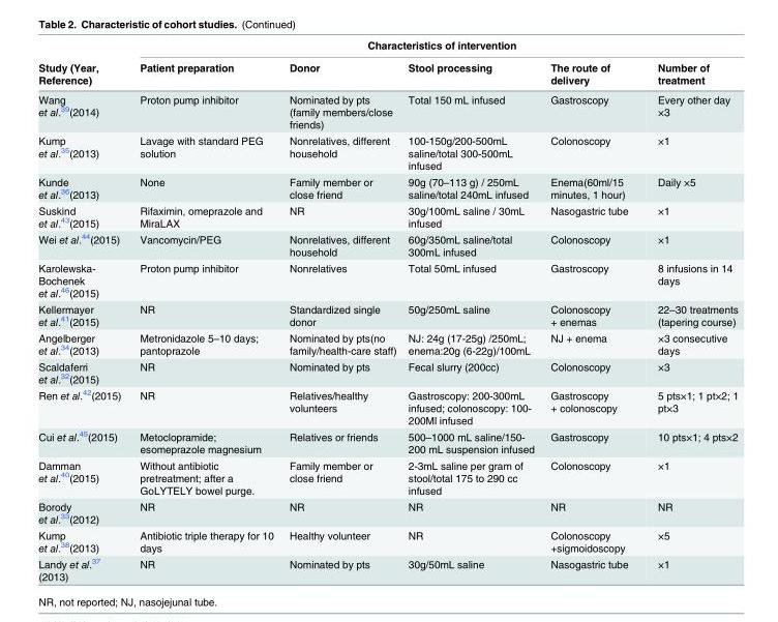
<table><thead><tr><td rowspan="2">Study (Year, Reference)</td><td colspan="5">Characteristics of intervention</td></tr><tr><td>Patient preparation</td><td>Donor</td><td>Stool processing</td><td>The route of delivery</td><td>Number of treatment</td></tr></thead><tbody><tr><td>Wang et al.<sup>39</sup>(2014)</td><td>Proton pump inhibitor</td><td>Nominated by pts (family members/close friends)</td><td>Total 150 mL infused</td><td>Gastroscopy</td><td>Every other day ×3</td></tr><tr><td>Kump et al.<sup>35</sup>(2013)</td><td>Lavage with standard PEG solution</td><td>Nonrelatives, different household</td><td>100-150g/200-500mL saline/total 300-500mL infused</td><td>Colonoscopy</td><td>×1</td></tr><tr><td>Kunde et al.<sup>36</sup>(2013)</td><td>None</td><td>Family member or close friend</td><td>90g (70–113 g) / 250mL saline/total 240mL infused</td><td>Enema(60ml/15 minutes, 1 hour)</td><td>Daily ×5</td></tr><tr><td>Suskind et al.<sup>43</sup>(2015)</td><td>Rifaximin, omeprazole and MiraLAX</td><td>NR</td><td>30g/100mL saline / 30mL infused</td><td>Nasogastric tube</td><td>×1</td></tr><tr><td>Wei et al.<sup>44</sup>(2015)</td><td>Vancomycin/PEG</td><td>Nonrelatives, different household</td><td>60g/350mL saline/total 300mL infused</td><td>Colonoscopy</td><td>×1</td></tr><tr><td>Karolewska- Bochenek et al.<sup>46</sup>(2015)</td><td>Proton pump inhibitor</td><td>Nonrelatives</td><td>Total 50mL infused</td><td>Gastroscopy</td><td>8 infusions in 14 days</td></tr><tr><td>Kellermayer et al.<sup>41</sup>(2015)</td><td>NR</td><td>Standardized single donor</td><td>50g/250mL saline</td><td>Colonoscopy + enemas</td><td>22–30 treatments (tapering course)</td></tr><tr><td>Angelberger et al.<sup>34</sup>(2013)</td><td>Metronidazole 5–10 days; pantoprazole</td><td>Nominated by pts(no family/health-care staff)</td><td>NJ: 24g (17-25g) /250mL; enema:20g (6-22g)/100mL</td><td>NJ + enema</td><td>×3 consecutive days</td></tr><tr><td>Scaldaferri et al.<sup>32</sup>(2015)</td><td>NR</td><td>Nominated by pts</td><td>Fecal slurry (200cc)</td><td>Colonoscopy</td><td>×3</td></tr><tr><td>Ren et al.<sup>42</sup>(2015)</td><td>NR</td><td>Relatives/healthy volunteers</td><td>Gastroscopy: 200-300mL infused; colonoscopy: 100- 200Ml infused</td><td>Gastroscopy + colonoscopy</td><td>5 pts×1; 1 pt×2; 1 pt×3</td></tr><tr><td>Cui et al.<sup>45</sup>(2015)</td><td>Metoclopramide; esomeprazole magnesium</td><td>Relatives or friends</td><td>500–1000 mL saline/150- 200 mL suspension infused</td><td>Gastroscopy</td><td>10 pts×1; 4 pts×2</td></tr><tr><td>Damman et al.<sup>40</sup>(2015)</td><td>Without antibiotic pretreatment; after a GoLYTELY bowel purge.</td><td>Family member or close friend</td><td>2-3mL saline per gram of stool/total 175 to 290 cc infused</td><td>Colonoscopy</td><td>×1</td></tr><tr><td>Borody et al.<sup>33</sup>(2012)</td><td>NR</td><td>NR</td><td>NR</td><td>NR</td><td>NR</td></tr><tr><td>Kump et al.<sup>38</sup>(2013)</td><td>Antibiotic triple therapy for 10 days</td><td>Healthy volunteer</td><td>NR</td><td>Colonoscopy +sigmoidoscopy</td><td>×5</td></tr><tr><td>Landy et al.<sup>37</sup> (2013)</td><td>NR</td><td>Nominated by pts</td><td>30g/50mL saline</td><td>Nasogastric tube</td><td>×1</td></tr></tbody></table>